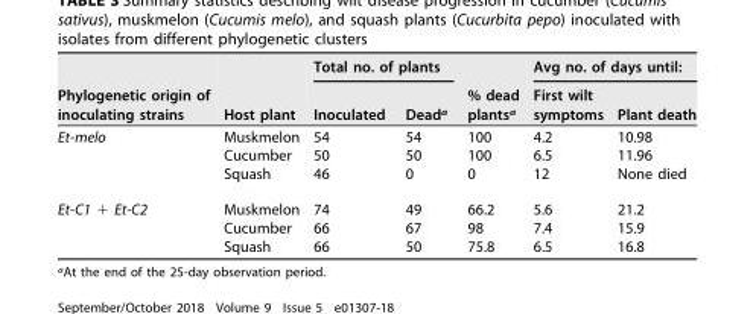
<table><thead><tr><td rowspan="2">Phylogenetic origin of inoculating strains</td><td rowspan="2">Host plant</td><td colspan="2">Total no. of plants</td><td rowspan="2">% dead plants<sup>a</sup></td><td colspan="2">Avg no. of days until:</td></tr><tr><td>Inoculated</td><td>Dead<sup>a</sup></td><td>First wilt symptoms</td><td>Plant death</td></tr></thead><tbody><tr><td rowspan="3">Et-melo</td><td>Muskmelon</td><td>54</td><td>54</td><td>100</td><td>4.2</td><td>10.98</td></tr><tr><td>Cucumber</td><td>50</td><td>50</td><td>100</td><td>6.5</td><td>11.96</td></tr><tr><td>Squash</td><td>46</td><td>0</td><td>0</td><td>12</td><td>None died</td></tr><tr><td rowspan="3">Et-C1 + Et-C2</td><td>Muskmelon</td><td>74</td><td>49</td><td>66.2</td><td>5.6</td><td>21.2</td></tr><tr><td>Cucumber</td><td>66</td><td>67</td><td>98</td><td>7.4</td><td>15.9</td></tr><tr><td>Squash</td><td>66</td><td>50</td><td>75.8</td><td>6.5</td><td>16.8</td></tr></tbody></table>